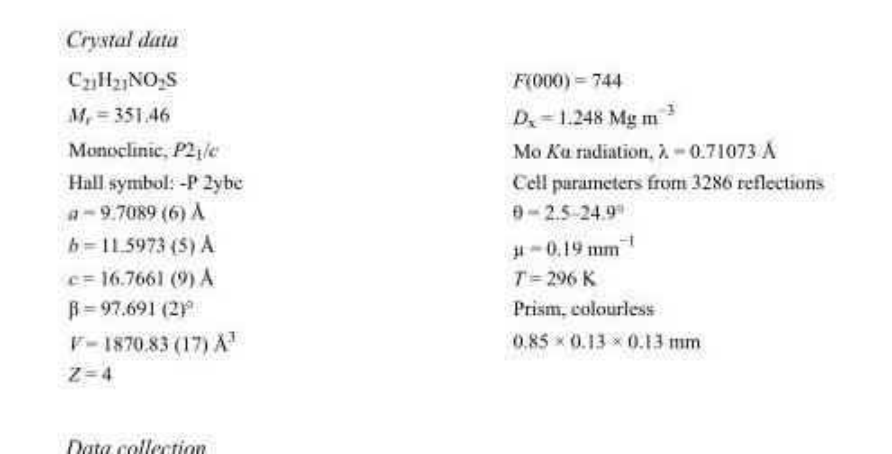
<table><tbody><tr><td>C<sub>21</sub>H<sub>21</sub>NO<sub>2</sub>S</td><td>F(000) = 744</td></tr><tr><td>M<sub>r</sub> = 351.46</td><td>D<sub>x</sub> = 1.248 Mg m<sup>−3</sup></td></tr><tr><td>Monoclinic, P2<sub>1</sub>/c</td><td>Mo Kα radiation, λ = 0.71073 Å</td></tr><tr><td>Hall symbol: -P 2ybc</td><td>Cell parameters from 3286 reflections</td></tr><tr><td>a = 9.7089 (6) Å</td><td>θ = 2.5–24.9°</td></tr><tr><td>b = 11.5973 (5) Å</td><td>µ = 0.19 mm<sup>−1</sup></td></tr><tr><td>c = 16.7661 (9) Å</td><td>T = 296 K</td></tr><tr><td>β = 97.691 (2)°</td><td>Prism, colourless</td></tr><tr><td>V = 1870.83 (17) Å<sup>3</sup></td><td>0.85 × 0.13 × 0.13 mm</td></tr><tr><td>Z = 4</td><td></td></tr></tbody></table>